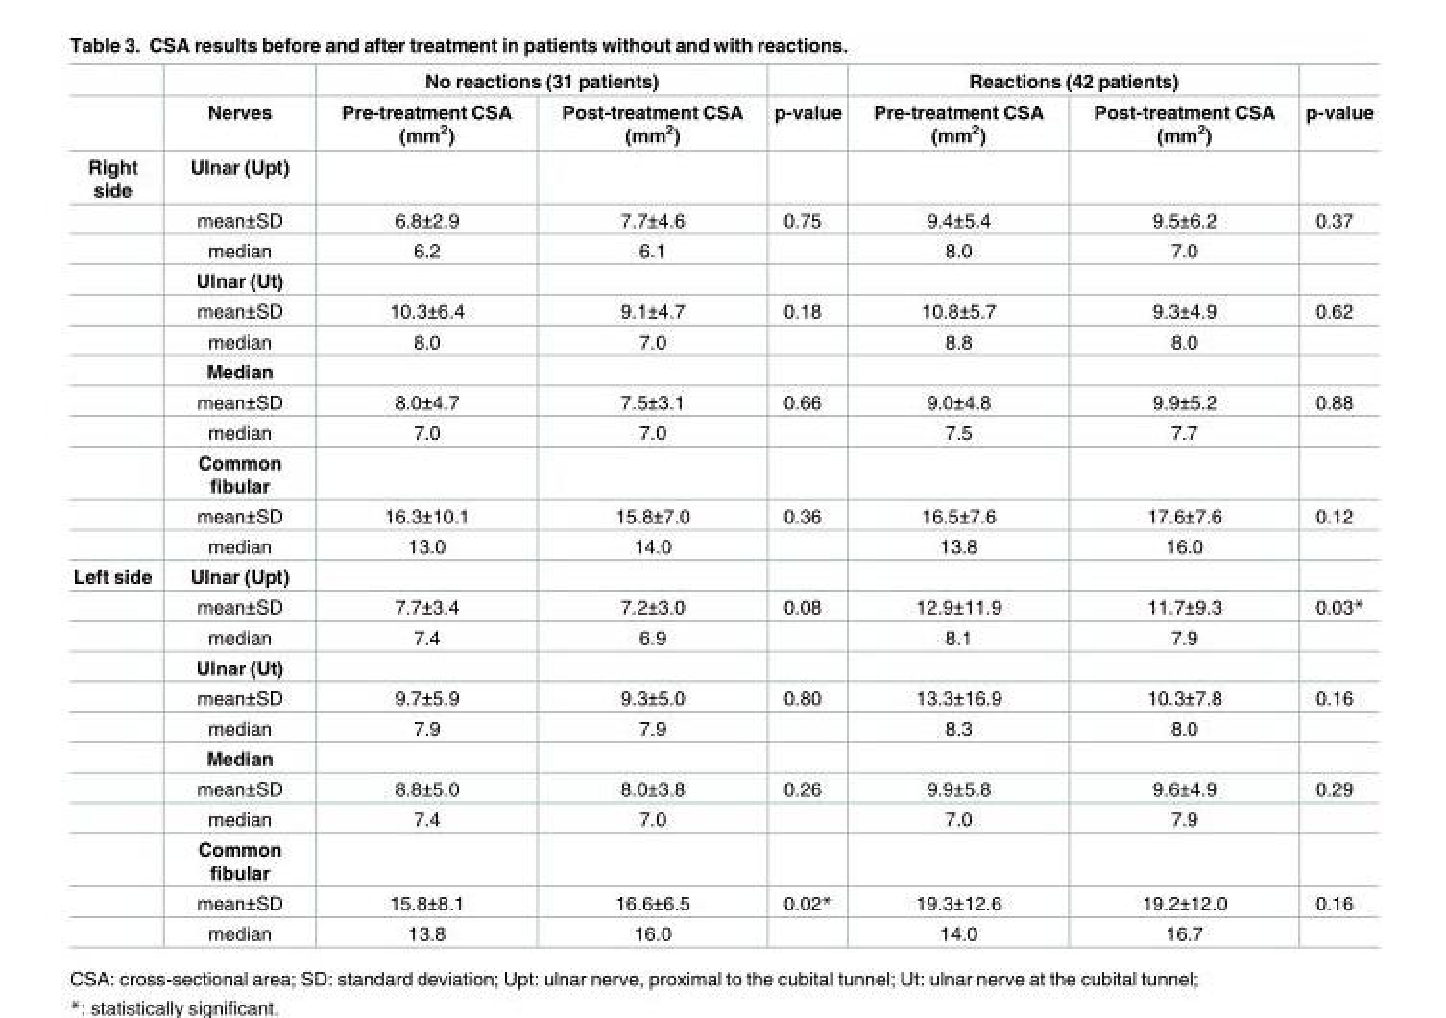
<table><thead><tr><td rowspan="2"></td><td rowspan="2">Nerves</td><td colspan="2">No reactions (31 patients)</td><td rowspan="2">p-value</td><td colspan="2">Reactions (42 patients)</td><td rowspan="2">p-value</td></tr><tr><td>Pre-treatment CSA (mm<sup>2</sup>)</td><td>Post-treatment CSA (mm<sup>2</sup>)</td><td>Pre-treatment CSA (mm<sup>2</sup>)</td><td>Post-treatment CSA (mm<sup>2</sup>)</td></tr></thead><tbody><tr><td rowspan="12">Right side</td><td>Ulnar (Upt)</td><td></td><td></td><td></td><td></td><td></td><td></td></tr><tr><td>mean±SD</td><td>6.8±2.9</td><td>7.7±4.6</td><td>0.75</td><td>9.4±5.4</td><td>9.5±6.2</td><td>0.37</td></tr><tr><td>median</td><td>6.2</td><td>6.1</td><td></td><td>8.0</td><td>7.0</td><td></td></tr><tr><td>Ulnar (Ut)</td><td></td><td></td><td></td><td></td><td></td><td></td></tr><tr><td>mean±SD</td><td>10.3±6.4</td><td>9.1±4.7</td><td>0.18</td><td>10.8±5.7</td><td>9.3±4.9</td><td>0.62</td></tr><tr><td>median</td><td>8.0</td><td>7.0</td><td></td><td>8.8</td><td>8.0</td><td></td></tr><tr><td>Median</td><td></td><td></td><td></td><td></td><td></td><td></td></tr><tr><td>mean±SD</td><td>8.0±4.7</td><td>7.5±3.1</td><td>0.66</td><td>9.0±4.8</td><td>9.9±5.2</td><td>0.88</td></tr><tr><td>median</td><td>7.0</td><td>7.0</td><td></td><td>7.5</td><td>7.7</td><td></td></tr><tr><td>Common fibular</td><td></td><td></td><td></td><td></td><td></td><td></td></tr><tr><td>mean±SD</td><td>16.3±10.1</td><td>15.8±7.0</td><td>0.36</td><td>16.5±7.6</td><td>17.6±7.6</td><td>0.12</td></tr><tr><td>median</td><td>13.0</td><td>14.0</td><td></td><td>13.8</td><td>16.0</td><td></td></tr><tr><td rowspan="12">Left side</td><td>Ulnar (Upt)</td><td></td><td></td><td></td><td></td><td></td><td></td></tr><tr><td>mean±SD</td><td>7.7±3.4</td><td>7.2±3.0</td><td>0.08</td><td>12.9±11.9</td><td>11.7±9.3</td><td>0.03*</td></tr><tr><td>median</td><td>7.4</td><td>6.9</td><td></td><td>8.1</td><td>7.9</td><td></td></tr><tr><td>Ulnar (Ut)</td><td></td><td></td><td></td><td></td><td></td><td></td></tr><tr><td>mean±SD</td><td>9.7±5.9</td><td>9.3±5.0</td><td>0.80</td><td>13.3±16.9</td><td>10.3±7.8</td><td>0.16</td></tr><tr><td>median</td><td>7.9</td><td>7.9</td><td></td><td>8.3</td><td>8.0</td><td></td></tr><tr><td>Median</td><td></td><td></td><td></td><td></td><td></td><td></td></tr><tr><td>mean±SD</td><td>8.8±5.0</td><td>8.0±3.8</td><td>0.26</td><td>9.9±5.8</td><td>9.6±4.9</td><td>0.29</td></tr><tr><td>median</td><td>7.4</td><td>7.0</td><td></td><td>7.0</td><td>7.9</td><td></td></tr><tr><td>Common fibular</td><td></td><td></td><td></td><td></td><td></td><td></td></tr><tr><td>mean±SD</td><td>15.8±8.1</td><td>16.6±6.5</td><td>0.02*</td><td>19.3±12.6</td><td>19.2±12.0</td><td>0.16</td></tr><tr><td>median</td><td>13.8</td><td>16.0</td><td></td><td>14.0</td><td>16.7</td><td></td></tr></tbody></table>